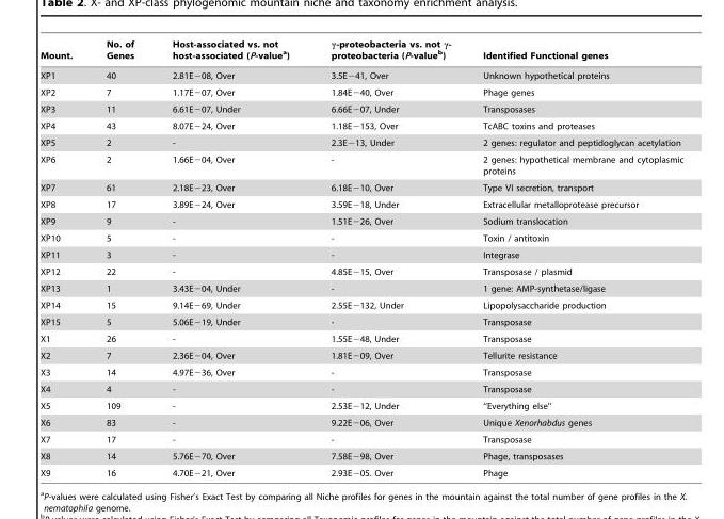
<table><thead><tr><td>Mount.</td><td>No. of Genes</td><td>Host-associated vs. not host-associated (P-value<sup>a</sup>)</td><td>γ-proteobacteria vs. not γ- proteobacteria (P-value<sup>b</sup>)</td><td>Identified Functional genes</td></tr></thead><tbody><tr><td>XP1</td><td>40</td><td>2.81E−08, Over</td><td>3.5E−41, Over</td><td>Unknown hypothetical proteins</td></tr><tr><td>XP2</td><td>7</td><td>1.17E−07, Over</td><td>1.84E−40, Over</td><td>Phage genes</td></tr><tr><td>XP3</td><td>11</td><td>6.61E−07, Under</td><td>6.66E−07, Under</td><td>Transposases</td></tr><tr><td>XP4</td><td>43</td><td>8.07E−24, Over</td><td>1.18E−153, Over</td><td>TcABC toxins and proteases</td></tr><tr><td>XP5</td><td>2</td><td>-</td><td>2.3E−13, Under</td><td>2 genes: regulator and peptidoglycan acetylation</td></tr><tr><td>XP6</td><td>2</td><td>1.66E−04, Over</td><td>-</td><td>2 genes: hypothetical membrane and cytoplasmic proteins</td></tr><tr><td>XP7</td><td>61</td><td>2.18E−23, Over</td><td>6.18E−10, Over</td><td>Type VI secretion, transport</td></tr><tr><td>XP8</td><td>17</td><td>3.89E−24, Over</td><td>3.59E−18, Under</td><td>Extracellular metalloprotease precursor</td></tr><tr><td>XP9</td><td>9</td><td>-</td><td>1.51E−26, Over</td><td>Sodium translocation</td></tr><tr><td>XP10</td><td>5</td><td>-</td><td>-</td><td>Toxin / antitoxin</td></tr><tr><td>XP11</td><td>3</td><td>-</td><td>-</td><td>Integrase</td></tr><tr><td>XP12</td><td>22</td><td>-</td><td>4.85E−15, Over</td><td>Transposase / plasmid</td></tr><tr><td>XP13</td><td>1</td><td>3.43E−04, Under</td><td>-</td><td>1 gene: AMP-synthetase/ligase</td></tr><tr><td>XP14</td><td>15</td><td>9.14E−69, Under</td><td>2.55E−132, Under</td><td>Lipopolysaccharide production</td></tr><tr><td>XP15</td><td>5</td><td>5.06E−19, Under</td><td>-</td><td>Transposase</td></tr><tr><td>X1</td><td>26</td><td>-</td><td>1.55E−48, Under</td><td>Transposase</td></tr><tr><td>X2</td><td>7</td><td>2.36E−04, Over</td><td>1.81E−09, Over</td><td>Tellurite resistance</td></tr><tr><td>X3</td><td>14</td><td>4.97E−36, Over</td><td>-</td><td>Transposase</td></tr><tr><td>X4</td><td>4</td><td>-</td><td>-</td><td>Transposase</td></tr><tr><td>X5</td><td>109</td><td>-</td><td>2.53E−12, Under</td><td>‘‘Everything else’’</td></tr><tr><td>X6</td><td>83</td><td>-</td><td>9.22E−06, Over</td><td>Unique Xenorhabdus genes</td></tr><tr><td>X7</td><td>17</td><td>-</td><td>-</td><td>Transposase</td></tr><tr><td>X8</td><td>14</td><td>5.76E−70, Over</td><td>7.58E−98, Over</td><td>Phage, transposases</td></tr><tr><td>X9</td><td>16</td><td>4.70E−21, Over</td><td>2.93E−05. Over</td><td>Phage</td></tr></tbody></table>